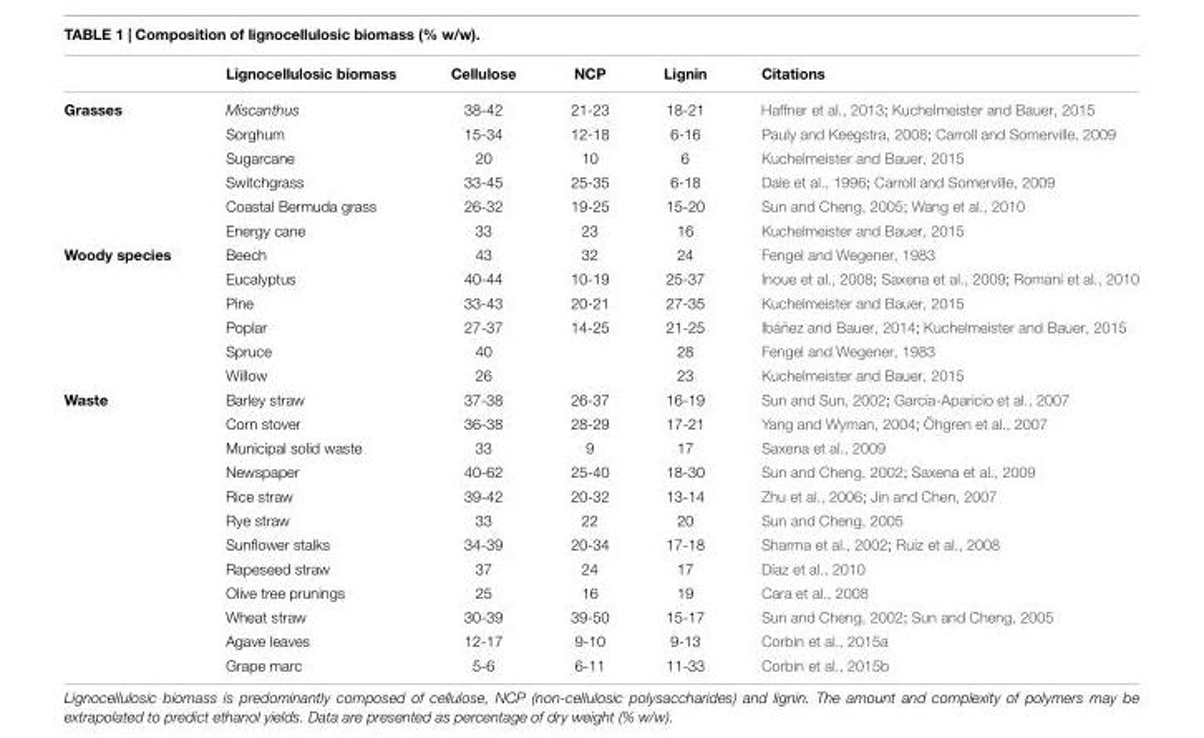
<table><thead><tr><td></td><td>Lignocellulosic biomass</td><td>Cellulose</td><td>NCP</td><td>Lignin</td><td>Citations</td></tr></thead><tbody><tr><td rowspan="6">Grasses</td><td>Miscanthus</td><td>38-42</td><td>21-23</td><td>18-21</td><td>Haffner et al., 2013; Kuchelmeister and Bauer, 2015</td></tr><tr><td>Sorghum</td><td>15-34</td><td>12-18</td><td>6-16</td><td>Pauly and Keegstra, 2008; Carroll and Somerville, 2009</td></tr><tr><td>Sugarcane</td><td>20</td><td>10</td><td>6</td><td>Kuchelmeister and Bauer, 2015</td></tr><tr><td>Switchgrass</td><td>33-45</td><td>25-35</td><td>6-18</td><td>Dale et al., 1996; Carroll and Somerville, 2009</td></tr><tr><td>Coastal Bermuda grass</td><td>26-32</td><td>19-25</td><td>15-20</td><td>Sun and Cheng, 2005; Wang et al., 2010</td></tr><tr><td>Energy cane</td><td>33</td><td>23</td><td>16</td><td>Kuchelmeister and Bauer, 2015</td></tr><tr><td rowspan="6">Woody species</td><td>Beech</td><td>43</td><td>32</td><td>24</td><td>Fengel and Wegener, 1983</td></tr><tr><td>Eucalyptus</td><td>40-44</td><td>10-19</td><td>25-37</td><td>Inoue et al., 2008; Saxena et al., 2009; Romaní et al., 2010</td></tr><tr><td>Pine</td><td>33-43</td><td>20-21</td><td>27-35</td><td>Kuchelmeister and Bauer, 2015</td></tr><tr><td>Poplar</td><td>27-37</td><td>14-25</td><td>21-25</td><td>Ibáñez and Bauer, 2014; Kuchelmeister and Bauer, 2015</td></tr><tr><td>Spruce</td><td>40</td><td></td><td>28</td><td>Fengel and Wegener, 1983</td></tr><tr><td>Willow</td><td>26</td><td></td><td>23</td><td>Kuchelmeister and Bauer, 2015</td></tr><tr><td rowspan="12">Waste</td><td>Barley straw</td><td>37-38</td><td>26-37</td><td>16-19</td><td>Sun and Sun, 2002; García-Aparicio et al., 2007</td></tr><tr><td>Corn stover</td><td>36-38</td><td>28-29</td><td>17-21</td><td>Yang and Wyman, 2004; Öhgren et al., 2007</td></tr><tr><td>Municipal solid waste</td><td>33</td><td>9</td><td>17</td><td>Saxena et al., 2009</td></tr><tr><td>Newspaper</td><td>40-62</td><td>25-40</td><td>18-30</td><td>Sun and Cheng, 2002; Saxena et al., 2009</td></tr><tr><td>Rice straw</td><td>39-42</td><td>20-32</td><td>13-14</td><td>Zhu et al., 2006; Jin and Chen, 2007</td></tr><tr><td>Rye straw</td><td>33</td><td>22</td><td>20</td><td>Sun and Cheng, 2005</td></tr><tr><td>Sunflower stalks</td><td>34-39</td><td>20-34</td><td>17-18</td><td>Sharma et al., 2002; Ruiz et al., 2008</td></tr><tr><td>Rapeseed straw</td><td>37</td><td>24</td><td>17</td><td>Díaz et al., 2010</td></tr><tr><td>Olive tree prunings</td><td>25</td><td>16</td><td>19</td><td>Cara et al., 2008</td></tr><tr><td>Wheat straw</td><td>30-39</td><td>39-50</td><td>15-17</td><td>Sun and Cheng, 2002; Sun and Cheng, 2005</td></tr><tr><td>Agave leaves</td><td>12-17</td><td>9-10</td><td>9-13</td><td>Corbin et al., 2015a</td></tr><tr><td>Grape marc</td><td>5-6</td><td>6-11</td><td>11-33</td><td>Corbin et al., 2015b</td></tr></tbody></table>